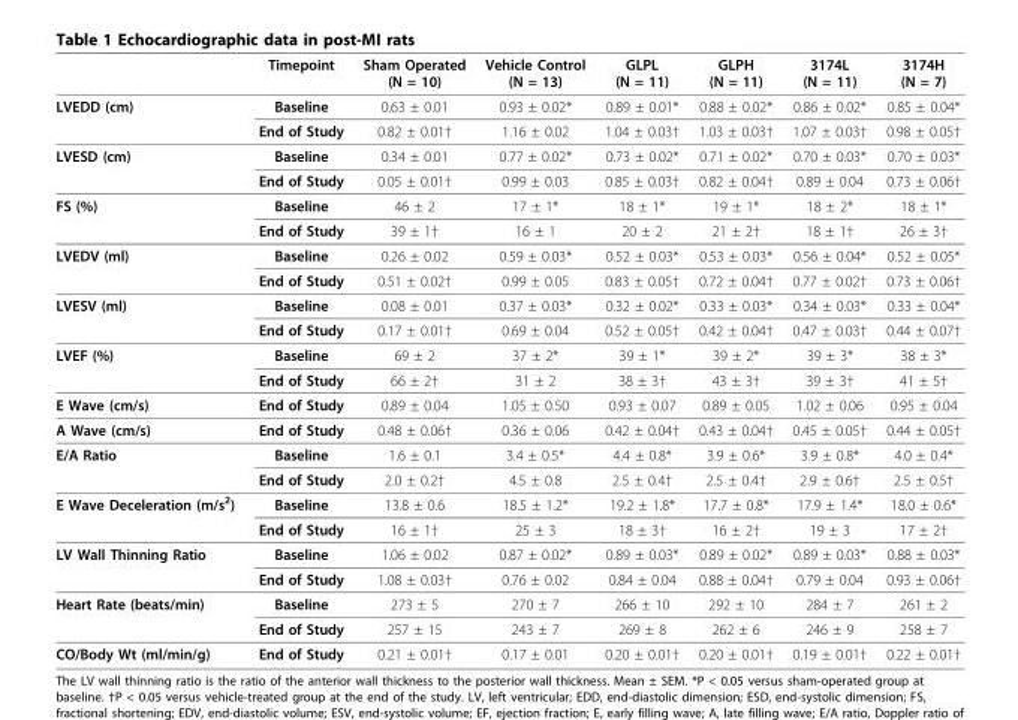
<table><thead><tr><td></td><td>Timepoint</td><td>Sham Operated (N = 10)</td><td>Vehicle Control (N = 13)</td><td>GLPL (N = 11)</td><td>GLPH (N = 11)</td><td>3174L (N = 11)</td><td>3174H (N = 7)</td></tr></thead><tbody><tr><td rowspan="2">LVEDD (cm)</td><td>Baseline</td><td>0.63 ± 0.01</td><td>0.93 ± 0.02*</td><td>0.89 ± 0.01*</td><td>0.88 ± 0.02*</td><td>0.86 ± 0.02*</td><td>0.85 ± 0.04*</td></tr><tr><td>End of Study</td><td>0.82 ± 0.01†</td><td>1.16 ± 0.02</td><td>1.04 ± 0.03†</td><td>1.03 ± 0.03†</td><td>1.07 ± 0.03†</td><td>0.98 ± 0.05†</td></tr><tr><td rowspan="2">LVESD (cm)</td><td>Baseline</td><td>0.34 ± 0.01</td><td>0.77 ± 0.02*</td><td>0.73 ± 0.02*</td><td>0.71 ± 0.02*</td><td>0.70 ± 0.03*</td><td>0.70 ± 0.03*</td></tr><tr><td>End of Study</td><td>0.05 ± 0.01†</td><td>0.99 ± 0.03</td><td>0.85 ± 0.03†</td><td>0.82 ± 0.04†</td><td>0.89 ± 0.04</td><td>0.73 ± 0.06†</td></tr><tr><td rowspan="2">FS (%)</td><td>Baseline</td><td>46 ± 2</td><td>17 ± 1*</td><td>18 ± 1*</td><td>19 ± 1*</td><td>18 ± 2*</td><td>18 ± 1*</td></tr><tr><td>End of Study</td><td>39 ± 1†</td><td>16 ± 1</td><td>20 ± 2</td><td>21 ± 2†</td><td>18 ± 1†</td><td>26 ± 3†</td></tr><tr><td rowspan="2">LVEDV (ml)</td><td>Baseline</td><td>0.26 ± 0.02</td><td>0.59 ± 0.03*</td><td>0.52 ± 0.03*</td><td>0.53 ± 0.03*</td><td>0.56 ± 0.04*</td><td>0.52 ± 0.05*</td></tr><tr><td>End of Study</td><td>0.51 ± 0.02†</td><td>0.99 ± 0.05</td><td>0.83 ± 0.05†</td><td>0.72 ± 0.04†</td><td>0.77 ± 0.02†</td><td>0.73 ± 0.06†</td></tr><tr><td rowspan="2">LVESV (ml)</td><td>Baseline</td><td>0.08 ± 0.01</td><td>0.37 ± 0.03*</td><td>0.32 ± 0.02*</td><td>0.33 ± 0.03*</td><td>0.34 ± 0.03*</td><td>0.33 ± 0.04*</td></tr><tr><td>End of Study</td><td>0.17 ± 0.01†</td><td>0.69 ± 0.04</td><td>0.52 ± 0.05†</td><td>0.42 ± 0.04†</td><td>0.47 ± 0.03†</td><td>0.44 ± 0.07†</td></tr><tr><td rowspan="2">LVEF (%)</td><td>Baseline</td><td>69 ± 2</td><td>37 ± 2*</td><td>39 ± 1*</td><td>39 ± 2*</td><td>39 ± 3*</td><td>38 ± 3*</td></tr><tr><td>End of Study</td><td>66 ± 2†</td><td>31 ± 2</td><td>38 ± 3†</td><td>43 ± 3†</td><td>39 ± 3†</td><td>41 ± 5†</td></tr><tr><td>E Wave (cm/s)</td><td>End of Study</td><td>0.89 ± 0.04</td><td>1.05 ± 0.50</td><td>0.93 ± 0.07</td><td>0.89 ± 0.05</td><td>1.02 ± 0.06</td><td>0.95 ± 0.04</td></tr><tr><td>A Wave (cm/s)</td><td>End of Study</td><td>0.48 ± 0.06†</td><td>0.36 ± 0.06</td><td>0.42 ± 0.04†</td><td>0.43 ± 0.04†</td><td>0.45 ± 0.05†</td><td>0.44 ± 0.05†</td></tr><tr><td rowspan="2">E/A Ratio</td><td>Baseline</td><td>1.6 ± 0.1</td><td>3.4 ± 0.5*</td><td>4.4 ± 0.8*</td><td>3.9 ± 0.6*</td><td>3.9 ± 0.8*</td><td>4.0 ± 0.4*</td></tr><tr><td>End of Study</td><td>2.0 ± 0.2†</td><td>4.5 ± 0.8</td><td>2.5 ± 0.4†</td><td>2.5 ± 0.4†</td><td>2.9 ± 0.6†</td><td>2.5 ± 0.5†</td></tr><tr><td rowspan="2">E Wave Deceleration (m/s<sup>2</sup>)</td><td>Baseline</td><td>13.8 ± 0.6</td><td>18.5 ± 1.2*</td><td>19.2 ± 1.8*</td><td>17.7 ± 0.8*</td><td>17.9 ± 1.4*</td><td>18.0 ± 0.6*</td></tr><tr><td>End of Study</td><td>16 ± 1†</td><td>25 ± 3</td><td>18 ± 3†</td><td>16 ± 2†</td><td>19 ± 3</td><td>17 ± 2†</td></tr><tr><td rowspan="2">LV Wall Thinning Ratio</td><td>Baseline</td><td>1.06 ± 0.02</td><td>0.87 ± 0.02*</td><td>0.89 ± 0.03*</td><td>0.89 ± 0.02*</td><td>0.89 ± 0.03*</td><td>0.88 ± 0.03*</td></tr><tr><td>End of Study</td><td>1.08 ± 0.03†</td><td>0.76 ± 0.02</td><td>0.84 ± 0.04</td><td>0.88 ± 0.04†</td><td>0.79 ± 0.04</td><td>0.93 ± 0.06†</td></tr><tr><td rowspan="2">Heart Rate (beats/min)</td><td>Baseline</td><td>273 ± 5</td><td>270 ± 7</td><td>266 ± 10</td><td>292 ± 10</td><td>284 ± 7</td><td>261 ± 2</td></tr><tr><td>End of Study</td><td>257 ± 15</td><td>243 ± 7</td><td>269 ± 8</td><td>262 ± 6</td><td>246 ± 9</td><td>258 ± 7</td></tr><tr><td>CO/Body Wt (ml/min/g)</td><td>End of Study</td><td>0.21 ± 0.01†</td><td>0.17 ± 0.01</td><td>0.20 ± 0.01†</td><td>0.20 ± 0.01†</td><td>0.19 ± 0.01†</td><td>0.22 ± 0.01†</td></tr></tbody></table>